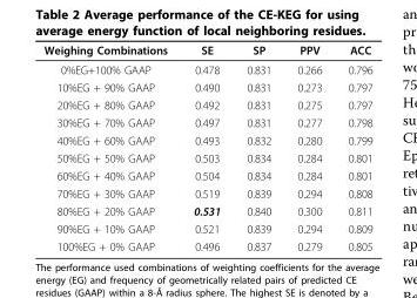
<table><thead><tr><td>Weighing Combinations</td><td>SE</td><td>SP</td><td>PPV</td><td>ACC</td></tr></thead><tbody><tr><td>0%EG+100% GAAP</td><td>0.478</td><td>0.831</td><td>0.266</td><td>0.796</td></tr><tr><td>10%EG + 90% GAAP</td><td>0.490</td><td>0.831</td><td>0.273</td><td>0.797</td></tr><tr><td>20%EG + 80% GAAP</td><td>0.492</td><td>0.831</td><td>0.275</td><td>0.797</td></tr><tr><td>30%EG + 70% GAAP</td><td>0.497</td><td>0.831</td><td>0.277</td><td>0.798</td></tr><tr><td>40%EG + 60% GAAP</td><td>0.493</td><td>0.832</td><td>0.280</td><td>0.799</td></tr><tr><td>50%EG + 50% GAAP</td><td>0.503</td><td>0.834</td><td>0.284</td><td>0.801</td></tr><tr><td>60%EG + 40% GAAP</td><td>0.504</td><td>0.834</td><td>0.284</td><td>0.801</td></tr><tr><td>70%EG + 30% GAAP</td><td>0.519</td><td>0.839</td><td>0.294</td><td>0.808</td></tr><tr><td>80%EG + 20% GAAP</td><td>0.531</td><td>0.840</td><td>0.300</td><td>0.811</td></tr><tr><td>90%EG + 10% GAAP</td><td>0.521</td><td>0.839</td><td>0.294</td><td>0.809</td></tr><tr><td>100%EG + 0% GAAP</td><td>0.496</td><td>0.837</td><td>0.279</td><td>0.805</td></tr></tbody></table>